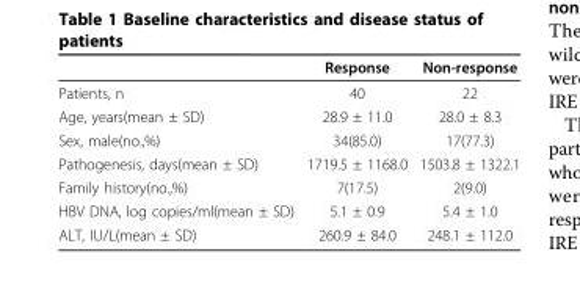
<table><thead><tr><td></td><td>Response</td><td>Non-response</td></tr></thead><tbody><tr><td>Patients, n</td><td>40</td><td>22</td></tr><tr><td>Age, years(mean ± SD)</td><td>28.9 ± 11.0</td><td>28.0 ± 8.3</td></tr><tr><td>Sex, male(no.,%)</td><td>34(85.0)</td><td>17(77.3)</td></tr><tr><td>Pathogenesis, days(mean ± SD)</td><td>1719.5 ± 1168.0</td><td>1503.8 ± 1322.1</td></tr><tr><td>Family history(no.,%)</td><td>7(17.5)</td><td>2(9.0)</td></tr><tr><td>HBV DNA, log copies/ml(mean ± SD)</td><td>5.1 ± 0.9</td><td>5.4 ± 1.0</td></tr><tr><td>ALT, IU/L(mean ± SD)</td><td>260.9 ± 84.0</td><td>248.1 ± 112.0</td></tr></tbody></table>